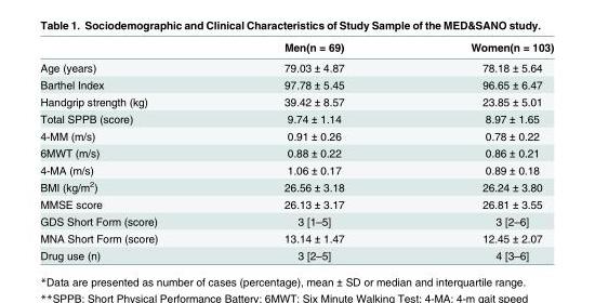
<table><thead><tr><td></td><td>Men(n = 69)</td><td>Women(n = 103)</td></tr></thead><tbody><tr><td>Age (years)</td><td>79.03 ± 4.87</td><td>78.18 ± 5.64</td></tr><tr><td>Barthel Index</td><td>97.78 ± 5.45</td><td>96.65 ± 6.47</td></tr><tr><td>Handgrip strength (kg)</td><td>39.42 ± 8.57</td><td>23.85 ± 5.01</td></tr><tr><td>Total SPPB (score)</td><td>9.74 ± 1.14</td><td>8.97 ± 1.65</td></tr><tr><td>4-MM (m/s)</td><td>0.91 ± 0.26</td><td>0.78 ± 0.22</td></tr><tr><td>6MWT (m/s)</td><td>0.88 ± 0.22</td><td>0.86 ± 0.21</td></tr><tr><td>4-MA (m/s)</td><td>1.06 ± 0.17</td><td>0.89 ± 0.18</td></tr><tr><td>BMI (kg/m<sup>2</sup>)</td><td>26.56 ± 3.18</td><td>26.24 ± 3.80</td></tr><tr><td>MMSE score</td><td>26.13 ± 3.17</td><td>26.81 ± 3.55</td></tr><tr><td>GDS Short Form (score)</td><td>3 [1–5]</td><td>3 [2–6]</td></tr><tr><td>MNA Short Form (score)</td><td>13.14 ± 1.47</td><td>12.45 ± 2.07</td></tr><tr><td>Drug use (n)</td><td>3 [2–5]</td><td>4 [3–6]</td></tr></tbody></table>